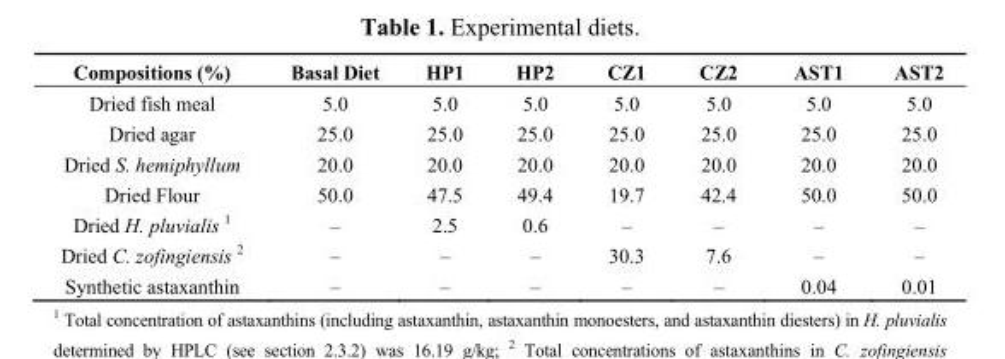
<table><thead><tr><td>Compositions (%)</td><td>Basal Diet</td><td>HP1</td><td>HP2</td><td>CZ1</td><td>CZ2</td><td>AST1</td><td>AST2</td></tr></thead><tbody><tr><td>Dried fish meal</td><td>5.0</td><td>5.0</td><td>5.0</td><td>5.0</td><td>5.0</td><td>5.0</td><td>5.0</td></tr><tr><td>Dried agar</td><td>25.0</td><td>25.0</td><td>25.0</td><td>25.0</td><td>25.0</td><td>25.0</td><td>25.0</td></tr><tr><td>Dried S. hemiphyllum</td><td>20.0</td><td>20.0</td><td>20.0</td><td>20.0</td><td>20.0</td><td>20.0</td><td>20.0</td></tr><tr><td>Dried Flour</td><td>50.0</td><td>47.5</td><td>49.4</td><td>19.7</td><td>42.4</td><td>50.0</td><td>50.0</td></tr><tr><td>Dried H. pluvialis <sup>1</sup></td><td>–</td><td>2.5</td><td>0.6</td><td>–</td><td>–</td><td>–</td><td>–</td></tr><tr><td>Dried C. zofingiensis <sup>2</sup></td><td>–</td><td>–</td><td>–</td><td>30.3</td><td>7.6</td><td>–</td><td>–</td></tr><tr><td>Synthetic astaxanthin</td><td>–</td><td>–</td><td>–</td><td>–</td><td>–</td><td>0.04</td><td>0.01</td></tr></tbody></table>